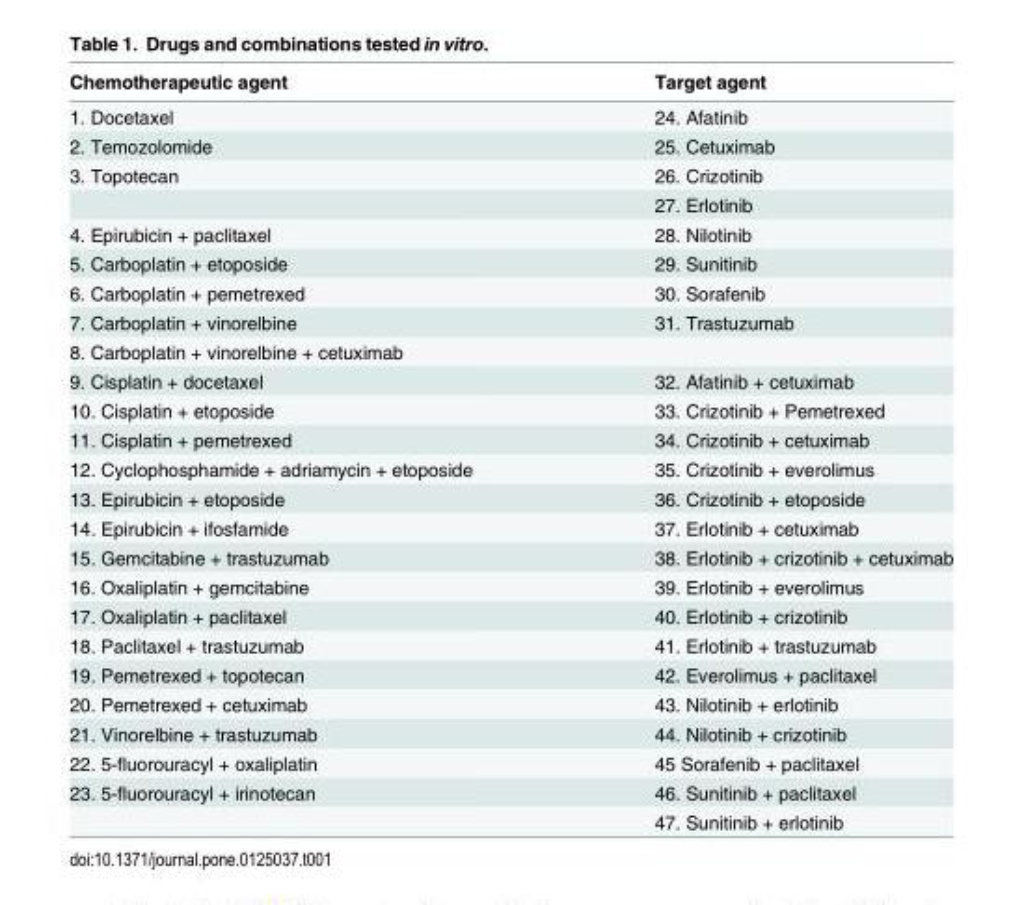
<table><thead><tr><td>Chemotherapeutic agent</td><td>Target agent</td></tr></thead><tbody><tr><td>1. Docetaxel</td><td>24. Afatinib</td></tr><tr><td>2. Temozolomide</td><td>25. Cetuximab</td></tr><tr><td rowspan="2">3. Topotecan</td><td>26. Crizotinib</td></tr><tr><td>27. Erlotinib</td></tr><tr><td>4. Epirubicin + paclitaxel</td><td>28. Nilotinib</td></tr><tr><td>5. Carboplatin + etoposide</td><td>29. Sunitinib</td></tr><tr><td>6. Carboplatin + pemetrexed</td><td>30. Sorafenib</td></tr><tr><td>7. Carboplatin + vinorelbine</td><td>31. Trastuzumab</td></tr><tr><td colspan="2">8. Carboplatin + vinorelbine + cetuximab</td></tr><tr><td>9. Cisplatin + docetaxel</td><td>32. Afatinib + cetuximab</td></tr><tr><td>10. Cisplatin + etoposide</td><td>33. Crizotinib + Pemetrexed</td></tr><tr><td>11. Cisplatin + pemetrexed</td><td>34. Crizotinib + cetuximab</td></tr><tr><td>12. Cyclophosphamide + adriamycin + etoposide</td><td>35. Crizotinib + everolimus</td></tr><tr><td>13. Epirubicin + etoposide</td><td>36. Crizotinib + etoposide</td></tr><tr><td>14. Epirubicin + ifosfamide</td><td>37. Erlotinib + cetuximab</td></tr><tr><td>15. Gemcitabine + trastuzumab</td><td>38. Erlotinib + crizotinib + cetuximab</td></tr><tr><td>16. Oxaliplatin + gemcitabine</td><td>39. Erlotinib + everolimus</td></tr><tr><td>17. Oxaliplatin + paclitaxel</td><td>40. Erlotinib + crizotinib</td></tr><tr><td>18. Paclitaxel + trastuzumab</td><td>41. Erlotinib + trastuzumab</td></tr><tr><td>19. Pemetrexed + topotecan</td><td>42. Everolimus + paclitaxel</td></tr><tr><td>20. Pemetrexed + cetuximab</td><td>43. Nilotinib + erlotinib</td></tr><tr><td>21. Vinorelbine + trastuzumab</td><td>44. Nilotinib + crizotinib</td></tr><tr><td>22. 5-fluorouracyl + oxaliplatin</td><td>45 Sorafenib + paclitaxel</td></tr><tr><td rowspan="2">23. 5-fluorouracyl + irinotecan</td><td>46. Sunitinib + paclitaxel</td></tr><tr><td>47. Sunitinib + erlotinib</td></tr></tbody></table>